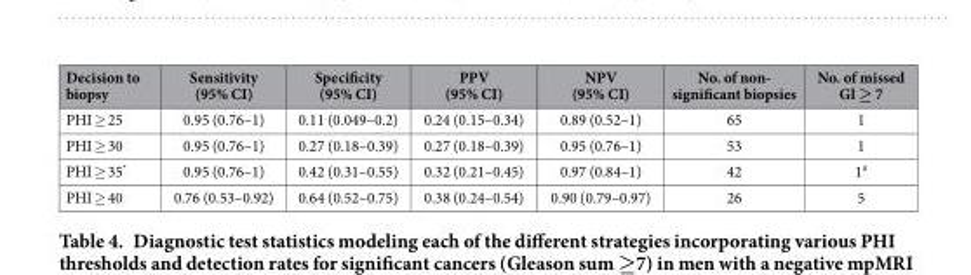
<table><thead><tr><td>Decision to biopsy</td><td>Sensitivity (95% CI)</td><td>Specificity (95% CI)</td><td>PPV (95% CI)</td><td>NPV (95% CI)</td><td>No. of non- significant biopsies</td><td>No. of missed Gl ≥ 7</td></tr></thead><tbody><tr><td>PHI ≥ 25</td><td>0.95 (0.76–1)</td><td>0.11 (0.049–0.2)</td><td>0.24 (0.15–0.34)</td><td>0.89 (0.52–1)</td><td>65</td><td>1</td></tr><tr><td>PHI ≥ 30</td><td>0.95 (0.76–1)</td><td>0.27 (0.18–0.39)</td><td>0.27 (0.18–0.39)</td><td>0.95 (0.76–1)</td><td>53</td><td>1</td></tr><tr><td>PHI ≥ 35*</td><td>0.95 (0.76–1)</td><td>0.42 (0.31–0.55)</td><td>0.32 (0.21–0.45)</td><td>0.97 (0.84–1)</td><td>42</td><td>1#</td></tr><tr><td>PHI ≥ 40</td><td>0.76 (0.53–0.92)</td><td>0.64 (0.52–0.75)</td><td>0.38 (0.24–0.54)</td><td>0.90 (0.79–0.97)</td><td>26</td><td>5</td></tr></tbody></table>